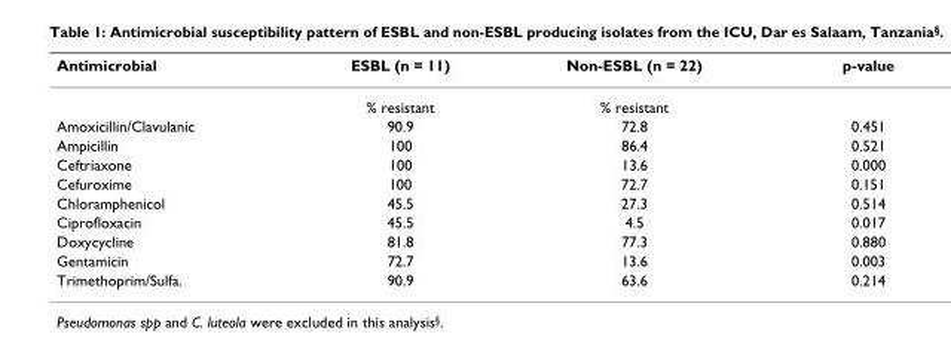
<table><thead><tr><td>Antimicrobial</td><td>ESBL (n = 11)</td><td>Non-ESBL (n = 22)</td><td>p-value</td></tr></thead><tbody><tr><td></td><td>% resistant</td><td>% resistant</td><td></td></tr><tr><td>Amoxicillin/Clavulanic</td><td>90.9</td><td>72.8</td><td>0.451</td></tr><tr><td>Ampicillin</td><td>100</td><td>86.4</td><td>0.521</td></tr><tr><td>Ceftriaxone</td><td>100</td><td>13.6</td><td>0.000</td></tr><tr><td>Cefuroxime</td><td>100</td><td>72.7</td><td>0.151</td></tr><tr><td>Chloramphenicol</td><td>45.5</td><td>27.3</td><td>0.514</td></tr><tr><td>Ciprofloxacin</td><td>45.5</td><td>4.5</td><td>0.017</td></tr><tr><td>Doxycycline</td><td>81.8</td><td>77.3</td><td>0.880</td></tr><tr><td>Gentamicin</td><td>72.7</td><td>13.6</td><td>0.003</td></tr><tr><td>Trimethoprim/Sulfa.</td><td>90.9</td><td>63.6</td><td>0.214</td></tr></tbody></table>